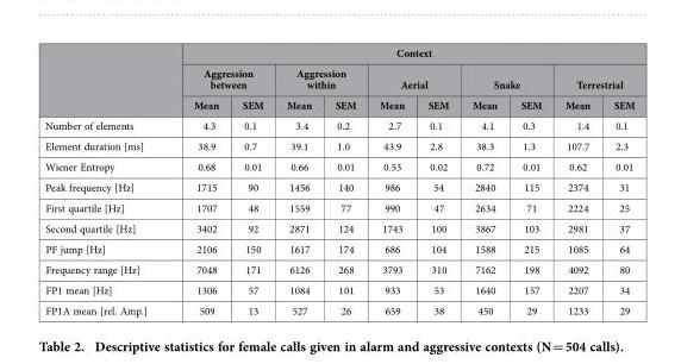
<table><thead><tr><td rowspan="3"></td><td colspan="10">Context</td></tr><tr><td colspan="2">Aggression between</td><td colspan="2">Aggression within</td><td colspan="2">Aerial</td><td colspan="2">Snake</td><td colspan="2">Terrestrial</td></tr><tr><td>Mean</td><td>SEM</td><td>Mean</td><td>SEM</td><td>Mean</td><td>SEM</td><td>Mean</td><td>SEM</td><td>Mean</td><td>SEM</td></tr></thead><tbody><tr><td>Number of elements</td><td>4.3</td><td>0.1</td><td>3.4</td><td>0.2</td><td>2.7</td><td>0.1</td><td>4.1</td><td>0.3</td><td>1.4</td><td>0.1</td></tr><tr><td>Element duration [ms]</td><td>38.9</td><td>0.7</td><td>39.1</td><td>1.0</td><td>43.9</td><td>2.8</td><td>38.3</td><td>1.3</td><td>107.7</td><td>2.3</td></tr><tr><td>Wiener Entropy</td><td>0.68</td><td>0.01</td><td>0.66</td><td>0.01</td><td>0.53</td><td>0.02</td><td>0.72</td><td>0.01</td><td>0.62</td><td>0.01</td></tr><tr><td>Peak frequency [Hz]</td><td>1715</td><td>90</td><td>1456</td><td>140</td><td>986</td><td>54</td><td>2840</td><td>115</td><td>2374</td><td>31</td></tr><tr><td>First quartile [Hz]</td><td>1707</td><td>48</td><td>1559</td><td>77</td><td>990</td><td>47</td><td>2634</td><td>71</td><td>2224</td><td>25</td></tr><tr><td>Second quartile [Hz]</td><td>3402</td><td>92</td><td>2871</td><td>124</td><td>1743</td><td>100</td><td>3867</td><td>103</td><td>2981</td><td>37</td></tr><tr><td>PF jump [Hz]</td><td>2106</td><td>150</td><td>1617</td><td>174</td><td>686</td><td>104</td><td>1588</td><td>215</td><td>1085</td><td>64</td></tr><tr><td>Frequency range [Hz]</td><td>7048</td><td>171</td><td>6126</td><td>268</td><td>3793</td><td>310</td><td>7162</td><td>198</td><td>4092</td><td>80</td></tr><tr><td>FP1 mean [Hz]</td><td>1306</td><td>57</td><td>1084</td><td>101</td><td>933</td><td>53</td><td>1640</td><td>157</td><td>2207</td><td>34</td></tr><tr><td>FP1A mean [rel. Amp.]</td><td>509</td><td>13</td><td>527</td><td>26</td><td>659</td><td>38</td><td>450</td><td>29</td><td>1233</td><td>29</td></tr></tbody></table>